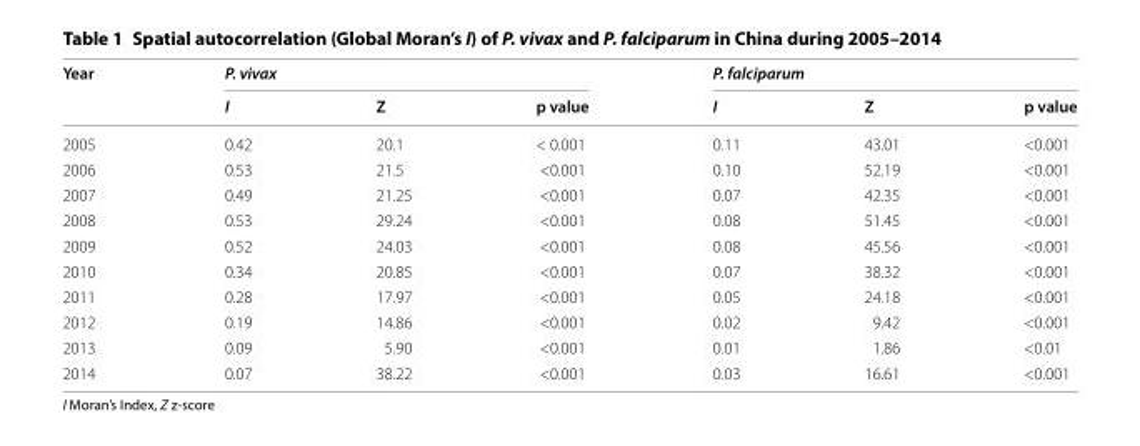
<table><thead><tr><td rowspan="2">Year</td><td colspan="3">P. vivax</td><td colspan="3">P. falciparum</td></tr><tr><td>I</td><td>Z</td><td>p value</td><td>I</td><td>Z</td><td>p value</td></tr></thead><tbody><tr><td>2005</td><td>0.42</td><td>20.1</td><td>&lt; 0.001</td><td>0.11</td><td>43.01</td><td>&lt;0.001</td></tr><tr><td>2006</td><td>0.53</td><td>21.5</td><td>&lt;0.001</td><td>0.10</td><td>52.19</td><td>&lt;0.001</td></tr><tr><td>2007</td><td>0.49</td><td>21.25</td><td>&lt;0.001</td><td>0.07</td><td>42.35</td><td>&lt;0.001</td></tr><tr><td>2008</td><td>0.53</td><td>29.24</td><td>&lt;0.001</td><td>0.08</td><td>51.45</td><td>&lt;0.001</td></tr><tr><td>2009</td><td>0.52</td><td>24.03</td><td>&lt;0.001</td><td>0.08</td><td>45.56</td><td>&lt;0.001</td></tr><tr><td>2010</td><td>0.34</td><td>20.85</td><td>&lt;0.001</td><td>0.07</td><td>38.32</td><td>&lt;0.001</td></tr><tr><td>2011</td><td>0.28</td><td>17.97</td><td>&lt;0.001</td><td>0.05</td><td>24.18</td><td>&lt;0.001</td></tr><tr><td>2012</td><td>0.19</td><td>14.86</td><td>&lt;0.001</td><td>0.02</td><td>9.42</td><td>&lt;0.001</td></tr><tr><td>2013</td><td>0.09</td><td>5.90</td><td>&lt;0.001</td><td>0.01</td><td>1.86</td><td>&lt;0.01</td></tr><tr><td>2014</td><td>0.07</td><td>38.22</td><td>&lt;0.001</td><td>0.03</td><td>16.61</td><td>&lt;0.001</td></tr></tbody></table>